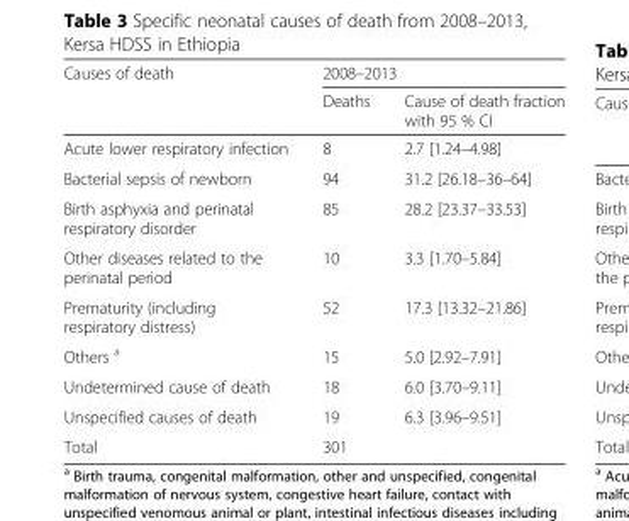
<table><thead><tr><td rowspan="2">Causes of death</td><td colspan="2">2008–2013</td></tr><tr><td>Deaths</td><td>Cause of death fraction with 95 % CI</td></tr></thead><tbody><tr><td>Acute lower respiratory infection</td><td>8</td><td>2.7 [1.24–4.98]</td></tr><tr><td>Bacterial sepsis of newborn</td><td>94</td><td>31.2 [26.18–36–64]</td></tr><tr><td>Birth asphyxia and perinatal respiratory disorder</td><td>85</td><td>28.2 [23.37–33.53]</td></tr><tr><td>Other diseases related to the perinatal period</td><td>10</td><td>3.3 [1.70–5.84]</td></tr><tr><td>Prematurity (including respiratory distress)</td><td>52</td><td>17.3 [13.32–21.86]</td></tr><tr><td>Others <sup>a</sup></td><td>15</td><td>5.0 [2.92–7.91]</td></tr><tr><td>Undetermined cause of death</td><td>18</td><td>6.0 [3.70–9.11]</td></tr><tr><td>Unspecified causes of death</td><td>19</td><td>6.3 [3.96–9.51]</td></tr><tr><td>Total</td><td>301</td><td></td></tr></tbody></table>